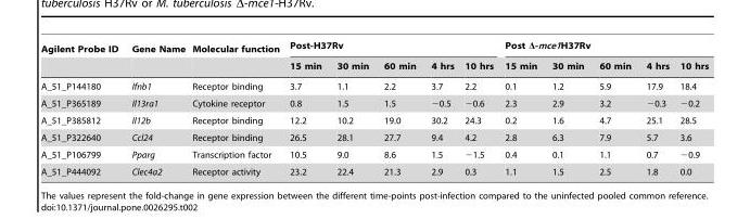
<table><thead><tr><td rowspan="2">Agilent Probe ID</td><td rowspan="2">Gene Name</td><td rowspan="2">Molecular function</td><td colspan="5">Post-H37Rv</td><td colspan="5">Post Δ-mce1H37Rv</td></tr><tr><td>15 min</td><td>30 min</td><td>60 min</td><td>4 hrs</td><td>10 hrs</td><td>15 min</td><td>30 min</td><td>60 min</td><td>4 hrs</td><td>10 hrs</td></tr></thead><tbody><tr><td>A_51_P144180</td><td>Ifnb1</td><td>Receptor binding</td><td>3.7</td><td>1.1</td><td>2.2</td><td>3.7</td><td>2.2</td><td>0.1</td><td>1.2</td><td>5.9</td><td>17.9</td><td>18.4</td></tr><tr><td>A_51_P365189</td><td>Il13ra1</td><td>Cytokine receptor</td><td>0.8</td><td>1.5</td><td>1.5</td><td>−0.5</td><td>−0.6</td><td>2.3</td><td>2.9</td><td>3.2</td><td>−0.3</td><td>−0.2</td></tr><tr><td>A_51_P385812</td><td>Il12b</td><td>Receptor binding</td><td>12.2</td><td>10.2</td><td>19.0</td><td>30.2</td><td>24.3</td><td>0.2</td><td>1.6</td><td>4.7</td><td>25.1</td><td>28.5</td></tr><tr><td>A_51_P322640</td><td>Ccl24</td><td>Receptor binding</td><td>26.5</td><td>28.1</td><td>27.7</td><td>9.4</td><td>4.2</td><td>2.8</td><td>6.3</td><td>7.9</td><td>5.7</td><td>3.6</td></tr><tr><td>A_51_P106799</td><td>Pparg</td><td>Transcription factor</td><td>10.5</td><td>9.0</td><td>8.6</td><td>1.5</td><td>−1.5</td><td>0.4</td><td>0.1</td><td>1.1</td><td>0.7</td><td>−0.9</td></tr><tr><td>A_51_P444092</td><td>Clec4a2</td><td>Receptor activity</td><td>23.2</td><td>22.4</td><td>21.3</td><td>2.9</td><td>0.3</td><td>1.1</td><td>1.5</td><td>2.5</td><td>1.8</td><td>0.0</td></tr></tbody></table>